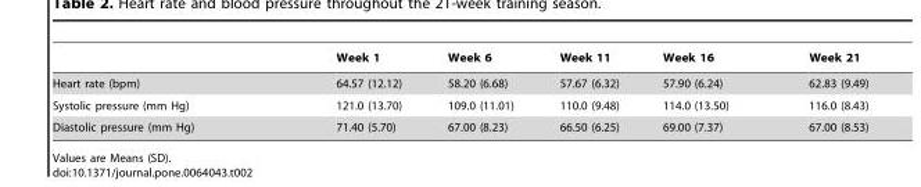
<table><thead><tr><td></td><td>Week 1</td><td>Week 6</td><td>Week 11</td><td>Week 16</td><td>Week 21</td></tr></thead><tbody><tr><td>Heart rate (bpm)</td><td>64.57 (12.12)</td><td>58.20 (6.68)</td><td>57.67 (6.32)</td><td>57.90 (6.24)</td><td>62.83 (9.49)</td></tr><tr><td>Systolic pressure (mm Hg)</td><td>121.0 (13.70)</td><td>109.0 (11.01)</td><td>110.0 (9.48)</td><td>114.0 (13.50)</td><td>116.0 (8.43)</td></tr><tr><td>Diastolic pressure (mm Hg)</td><td>71.40 (5.70)</td><td>67.00 (8.23)</td><td>66.50 (6.25)</td><td>69.00 (7.37)</td><td>67.00 (8.53)</td></tr></tbody></table>